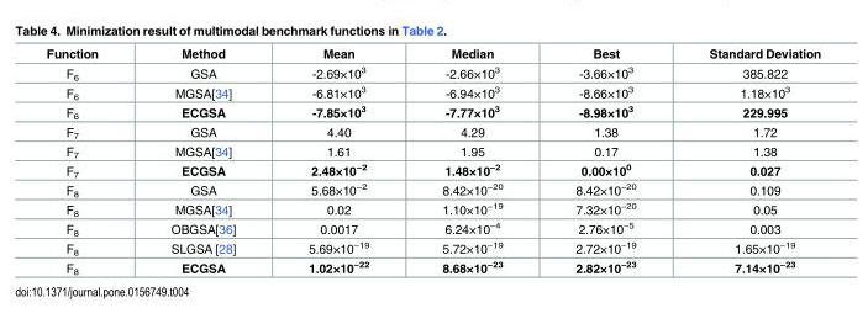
<table><thead><tr><td>Function</td><td>Method</td><td>Mean</td><td>Median</td><td>Best</td><td>Standard Deviation</td></tr></thead><tbody><tr><td>F<sub>6</sub></td><td>GSA</td><td>-2.69×10<sup>3</sup></td><td>-2.66×10<sup>3</sup></td><td>-3.66×10<sup>3</sup></td><td>385.822</td></tr><tr><td>F<sub>6</sub></td><td>MGSA[34]</td><td>-6.81×10<sup>3</sup></td><td>-6.94×10<sup>3</sup></td><td>-8.66×10<sup>3</sup></td><td>1.18×10<sup>3</sup></td></tr><tr><td>F<sub>6</sub></td><td>ECGSA</td><td>-7.85×10<sup>3</sup></td><td>-7.77×10<sup>3</sup></td><td>-8.98×10<sup>3</sup></td><td>229.995</td></tr><tr><td>F<sub>7</sub></td><td>GSA</td><td>4.40</td><td>4.29</td><td>1.38</td><td>1.72</td></tr><tr><td>F<sub>7</sub></td><td>MGSA[34]</td><td>1.61</td><td>1.95</td><td>0.17</td><td>1.38</td></tr><tr><td>F<sub>7</sub></td><td>ECGSA</td><td>2.48×10<sup>−2</sup></td><td>1.48×10<sup>−2</sup></td><td>0.00×10<sup>0</sup></td><td>0.027</td></tr><tr><td>F<sub>8</sub></td><td>GSA</td><td>5.68×10<sup>−2</sup></td><td>8.42×10<sup>−20</sup></td><td>8.42×10<sup>−20</sup></td><td>0.109</td></tr><tr><td>F<sub>8</sub></td><td>MGSA[34]</td><td>0.02</td><td>1.10×10<sup>−19</sup></td><td>7.32×10<sup>−20</sup></td><td>0.05</td></tr><tr><td>F<sub>8</sub></td><td>OBGSA[36]</td><td>0.0017</td><td>6.24×10<sup>−4</sup></td><td>2.76×10<sup>−5</sup></td><td>0.003</td></tr><tr><td>F<sub>8</sub></td><td>SLGSA [28]</td><td>5.69×10<sup>−19</sup></td><td>5.72×10<sup>−19</sup></td><td>2.72×10<sup>−19</sup></td><td>1.65×10<sup>−19</sup></td></tr><tr><td>F<sub>8</sub></td><td>ECGSA</td><td>1.02×10<sup>−22</sup></td><td>8.68×10<sup>−23</sup></td><td>2.82×10<sup>−23</sup></td><td>7.14×10<sup>−23</sup></td></tr></tbody></table>